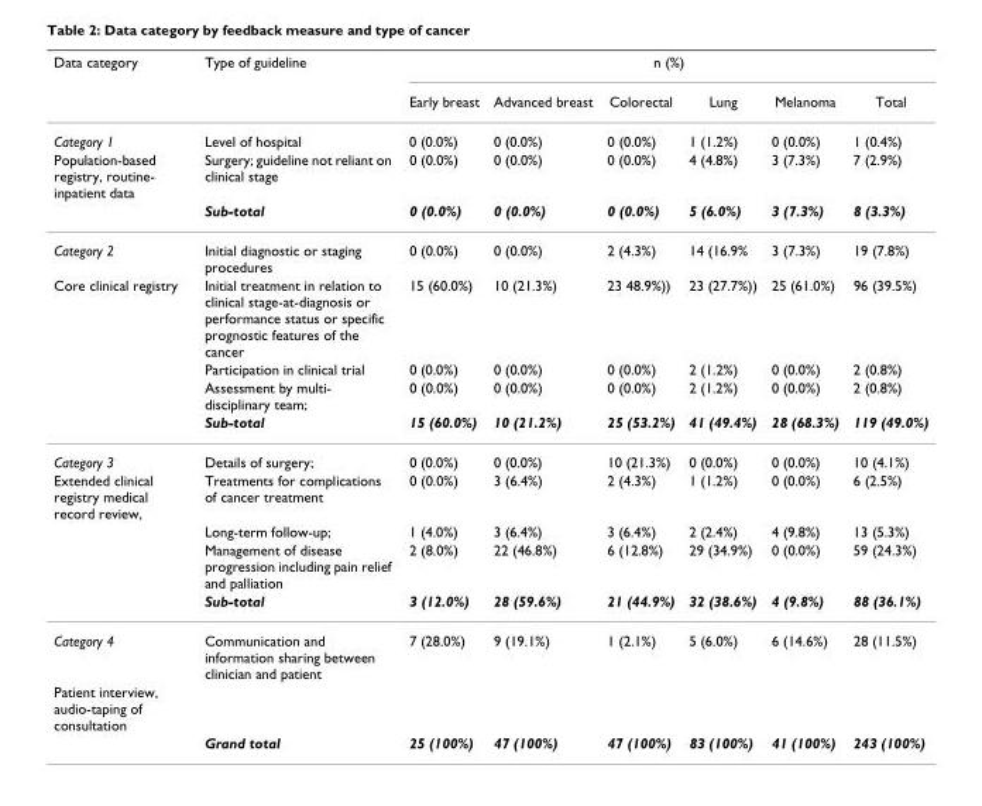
<table><thead><tr><td rowspan="2">Data category</td><td rowspan="2">Type of guideline</td><td colspan="6">n (%)</td></tr><tr><td>Early breast</td><td>Advanced breast</td><td>Colorectal</td><td>Lung</td><td>Melanoma</td><td>Total</td></tr></thead><tbody><tr><td>Category 1</td><td>Level of hospital</td><td>0 (0.0%)</td><td>0 (0.0%)</td><td>0 (0.0%)</td><td>1 (1.2%)</td><td>0 (0.0%)</td><td>1 (0.4%)</td></tr><tr><td rowspan="2">Population-based registry, routine- inpatient data</td><td>Surgery; guideline not reliant on clinical stage</td><td>0 (0.0%)</td><td>0 (0.0%)</td><td>0 (0.0%)</td><td>4 (4.8%)</td><td>3 (7.3%)</td><td>7 (2.9%)</td></tr><tr><td>Sub-total</td><td>0 (0.0%)</td><td>0 (0.0%)</td><td>0 (0.0%)</td><td>5 (6.0%)</td><td>3 (7.3%)</td><td>8 (3.3%)</td></tr><tr><td>Category 2</td><td>Initial diagnostic or staging procedures</td><td>0 (0.0%)</td><td>0 (0.0%)</td><td>2 (4.3%)</td><td>14 (16.9%</td><td>3 (7.3%)</td><td>19 (7.8%)</td></tr><tr><td rowspan="4">Core clinical registry</td><td>Initial treatment in relation to clinical stage-at-diagnosis or performance status or specific prognostic features of the cancer</td><td>15 (60.0%)</td><td>10 (21.3%)</td><td>23 48.9%))</td><td>23 (27.7%))</td><td>25 (61.0%)</td><td>96 (39.5%)</td></tr><tr><td>Participation in clinical trial</td><td>0 (0.0%)</td><td>0 (0.0%)</td><td>0 (0.0%)</td><td>2 (1.2%)</td><td>0 (0.0%)</td><td>2 (0.8%)</td></tr><tr><td>Assessment by multi- disciplinary team;</td><td>0 (0.0%)</td><td>0 (0.0%)</td><td>0 (0.0%)</td><td>2 (1.2%)</td><td>0 (0.0%)</td><td>2 (0.8%)</td></tr><tr><td>Sub-total</td><td>15 (60.0%)</td><td>10 (21.2%)</td><td>25 (53.2%)</td><td>41 (49.4%)</td><td>28 (68.3%)</td><td>119 (49.0%)</td></tr><tr><td>Category 3</td><td>Details of surgery;</td><td>0 (0.0%)</td><td>0 (0.0%)</td><td>10 (21.3%)</td><td>0 (0.0%)</td><td>0 (0.0%)</td><td>10 (4.1%)</td></tr><tr><td rowspan="4">Extended clinical registry medical record review,</td><td>Treatments for complications of cancer treatment</td><td>0 (0.0%)</td><td>3 (6.4%)</td><td>2 (4.3%)</td><td>1 (1.2%)</td><td>0 (0.0%)</td><td>6 (2.5%)</td></tr><tr><td>Long-term follow-up;</td><td>1 (4.0%)</td><td>3 (6.4%)</td><td>3 (6.4%)</td><td>2 (2.4%)</td><td>4 (9.8%)</td><td>13 (5.3%)</td></tr><tr><td>Management of disease progression including pain relief and palliation</td><td>2 (8.0%)</td><td>22 (46.8%)</td><td>6 (12.8%)</td><td>29 (34.9%)</td><td>0 (0.0%)</td><td>59 (24.3%)</td></tr><tr><td>Sub-total</td><td>3 (12.0%)</td><td>28 (59.6%)</td><td>21 (44.9%)</td><td>32 (38.6%)</td><td>4 (9.8%)</td><td>88 (36.1%)</td></tr><tr><td>Category 4</td><td>Communication and information sharing between clinician and patient</td><td>7 (28.0%)</td><td>9 (19.1%)</td><td>1 (2.1%)</td><td>5 (6.0%)</td><td>6 (14.6%)</td><td>28 (11.5%)</td></tr><tr><td colspan="8">Patient interview, audio-taping of consultation</td></tr><tr><td></td><td>Grand total</td><td>25 (100%)</td><td>47 (100%)</td><td>47 (100%)</td><td>83 (100%)</td><td>41 (100%)</td><td>243 (100%)</td></tr></tbody></table>